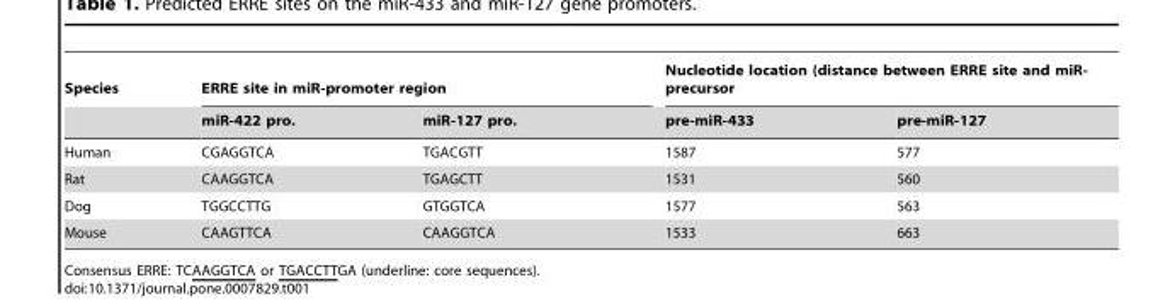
<table><thead><tr><td rowspan="2">Species</td><td colspan="2">ERRE site in miR-promoter region</td><td colspan="2">Nucleotide location (distance between ERRE site and miR- precursor</td></tr><tr><td>miR-422 pro.</td><td>miR-127 pro.</td><td>pre-miR-433</td><td>pre-miR-127</td></tr></thead><tbody><tr><td>Human</td><td>CGAGGTCA</td><td>TGACGTT</td><td>1587</td><td>577</td></tr><tr><td>Rat</td><td>CAAGGTCA</td><td>TGAGCTT</td><td>1531</td><td>560</td></tr><tr><td>Dog</td><td>TGGCCTTG</td><td>GTGGTCA</td><td>1577</td><td>563</td></tr><tr><td>Mouse</td><td>CAAGTTCA</td><td>CAAGGTCA</td><td>1533</td><td>663</td></tr></tbody></table>